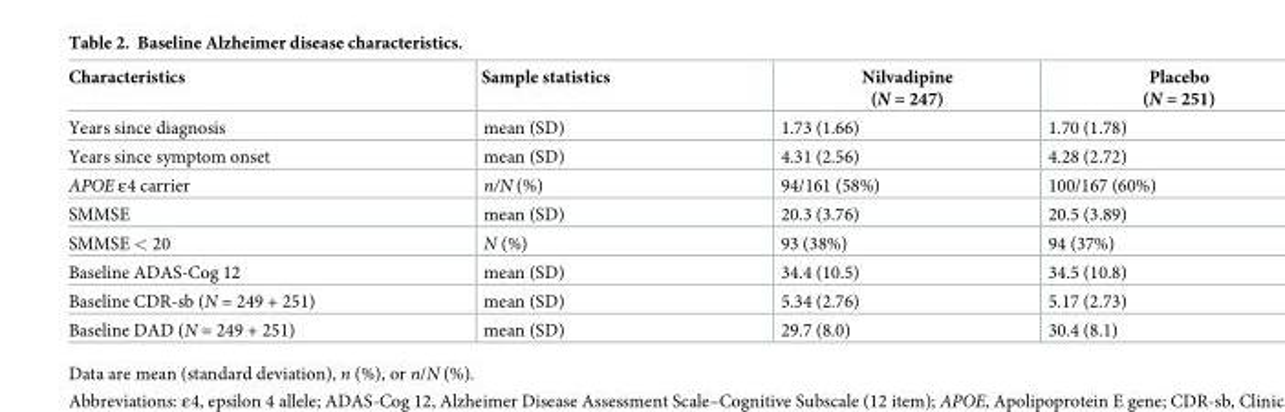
<table><thead><tr><td>Characteristics</td><td>Sample statistics</td><td>Nilvadipine (N = 247)</td><td>Placebo (N = 251)</td></tr></thead><tbody><tr><td>Years since diagnosis</td><td>mean (SD)</td><td>1.73 (1.66)</td><td>1.70 (1.78)</td></tr><tr><td>Years since symptom onset</td><td>mean (SD)</td><td>4.31 (2.56)</td><td>4.28 (2.72)</td></tr><tr><td>APOE ε4 carrier</td><td>n/N (%)</td><td>94/161 (58%)</td><td>100/167 (60%)</td></tr><tr><td>SMMSE</td><td>mean (SD)</td><td>20.3 (3.76)</td><td>20.5 (3.89)</td></tr><tr><td>SMMSE &lt; 20</td><td>N (%)</td><td>93 (38%)</td><td>94 (37%)</td></tr><tr><td>Baseline ADAS-Cog 12</td><td>mean (SD)</td><td>34.4 (10.5)</td><td>34.5 (10.8)</td></tr><tr><td>Baseline CDR-sb (N = 249 + 251)</td><td>mean (SD)</td><td>5.34 (2.76)</td><td>5.17 (2.73)</td></tr><tr><td>Baseline DAD (N = 249 + 251)</td><td>mean (SD)</td><td>29.7 (8.0)</td><td>30.4 (8.1)</td></tr></tbody></table>